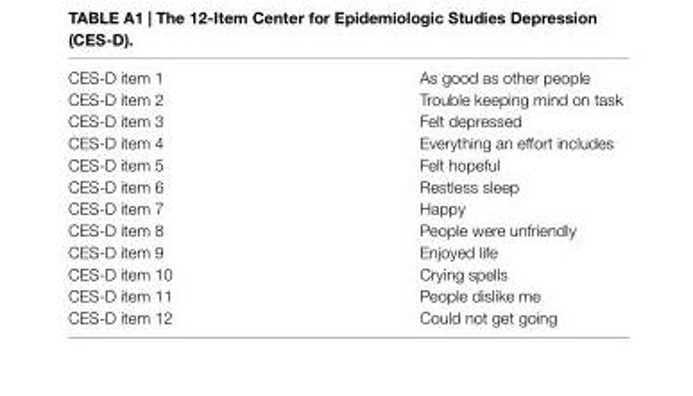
<table><tbody><tr><td>CES-D item 1</td><td>As good as other people</td></tr><tr><td>CES-D item 2</td><td>Trouble keeping mind on task</td></tr><tr><td>CES-D item 3</td><td>Felt depressed</td></tr><tr><td>CES-D item 4</td><td>Everything an effort includes</td></tr><tr><td>CES-D item 5</td><td>Felt hopeful</td></tr><tr><td>CES-D item 6</td><td>Restless sleep</td></tr><tr><td>CES-D item 7</td><td>Happy</td></tr><tr><td>CES-D item 8</td><td>People were unfriendly</td></tr><tr><td>CES-D item 9</td><td>Enjoyed life</td></tr><tr><td>CES-D item 10</td><td>Crying spells</td></tr><tr><td>CES-D item 11</td><td>People dislike me</td></tr><tr><td>CES-D item 12</td><td>Could not get going</td></tr></tbody></table>